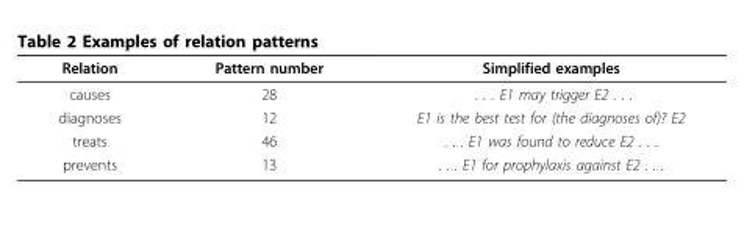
<table><thead><tr><td>Relation</td><td>Pattern number</td><td>Simplified examples</td></tr></thead><tbody><tr><td>causes</td><td>28</td><td>. . . E1 may trigger E2 . . .</td></tr><tr><td>diagnoses</td><td>12</td><td>E1 is the best test for (the diagnoses of)? E2</td></tr><tr><td>treats</td><td>46</td><td>. . . E1 was found to reduce E2 . . .</td></tr><tr><td>prevents</td><td>13</td><td>. . . E1 for prophylaxis against E2 . . .</td></tr></tbody></table>